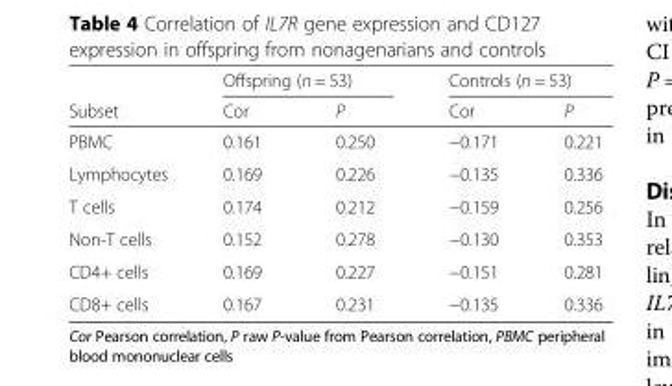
<table><thead><tr><td rowspan="2">Subset</td><td colspan="2">Offspring (n = 53)</td><td colspan="2">Controls (n = 53)</td></tr><tr><td>Cor</td><td>P</td><td>Cor</td><td>P</td></tr></thead><tbody><tr><td>PBMC</td><td>0.161</td><td>0.250</td><td>−0.171</td><td>0.221</td></tr><tr><td>Lymphocytes</td><td>0.169</td><td>0.226</td><td>−0.135</td><td>0.336</td></tr><tr><td>T cells</td><td>0.174</td><td>0.212</td><td>−0.159</td><td>0.256</td></tr><tr><td>Non-T cells</td><td>0.152</td><td>0.278</td><td>−0.130</td><td>0.353</td></tr><tr><td>CD4+ cells</td><td>0.169</td><td>0.227</td><td>−0.151</td><td>0.281</td></tr><tr><td>CD8+ cells</td><td>0.167</td><td>0.231</td><td>−0.135</td><td>0.336</td></tr></tbody></table>